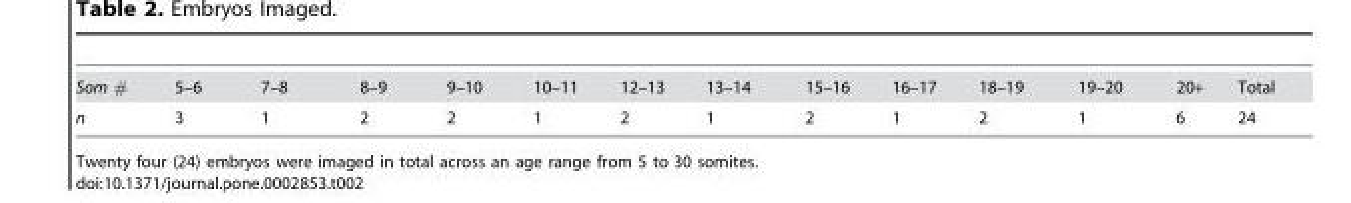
<table><tbody><tr><td>Som #</td><td>5–6</td><td>7–8</td><td>8–9</td><td>9–10</td><td>10–11</td><td>12–13</td><td>13–14</td><td>15–16</td><td>16–17</td><td>18–19</td><td>19–20</td><td>20+</td><td>Total</td></tr><tr><td>n</td><td>3</td><td>1</td><td>2</td><td>2</td><td>1</td><td>2</td><td>1</td><td>2</td><td>1</td><td>2</td><td>1</td><td>6</td><td>24</td></tr></tbody></table>